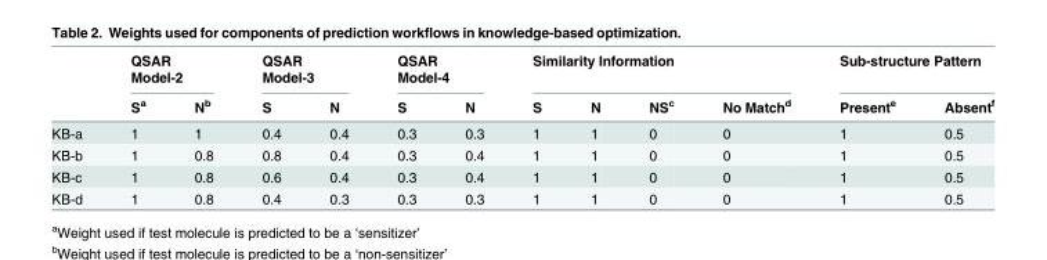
<table><thead><tr><td rowspan="2"></td><td colspan="2">QSAR Model-2</td><td colspan="2">QSAR Model-3</td><td colspan="2">QSAR Model-4</td><td colspan="4">Similarity Information</td><td colspan="2">Sub-structure Pattern</td></tr><tr><td>S<sup>a</sup></td><td>N<sup>b</sup></td><td>S</td><td>N</td><td>S</td><td>N</td><td>S</td><td>N</td><td>NS<sup>c</sup></td><td>No Match<sup>d</sup></td><td>Present<sup>e</sup></td><td>Absent<sup>f</sup></td></tr></thead><tbody><tr><td>KB-a</td><td>1</td><td>1</td><td>0.4</td><td>0.4</td><td>0.3</td><td>0.3</td><td>1</td><td>1</td><td>0</td><td>0</td><td>1</td><td>0.5</td></tr><tr><td>KB-b</td><td>1</td><td>0.8</td><td>0.8</td><td>0.4</td><td>0.3</td><td>0.4</td><td>1</td><td>1</td><td>0</td><td>0</td><td>1</td><td>0.5</td></tr><tr><td>KB-c</td><td>1</td><td>0.8</td><td>0.6</td><td>0.4</td><td>0.3</td><td>0.4</td><td>1</td><td>1</td><td>0</td><td>0</td><td>1</td><td>0.5</td></tr><tr><td>KB-d</td><td>1</td><td>0.8</td><td>0.4</td><td>0.3</td><td>0.3</td><td>0.3</td><td>1</td><td>1</td><td>0</td><td>0</td><td>1</td><td>0.5</td></tr></tbody></table>